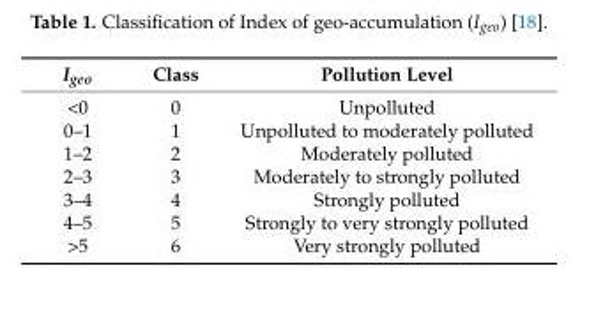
<table><thead><tr><td>I<sub>geo</sub></td><td>Class</td><td>Pollution Level</td></tr></thead><tbody><tr><td>&lt;0</td><td>0</td><td>Unpolluted</td></tr><tr><td>0–1</td><td>1</td><td>Unpolluted to moderately polluted</td></tr><tr><td>1–2</td><td>2</td><td>Moderately polluted</td></tr><tr><td>2–3</td><td>3</td><td>Moderately to strongly polluted</td></tr><tr><td>3–4</td><td>4</td><td>Strongly polluted</td></tr><tr><td>4–5</td><td>5</td><td>Strongly to very strongly polluted</td></tr><tr><td>&gt;5</td><td>6</td><td>Very strongly polluted</td></tr></tbody></table>